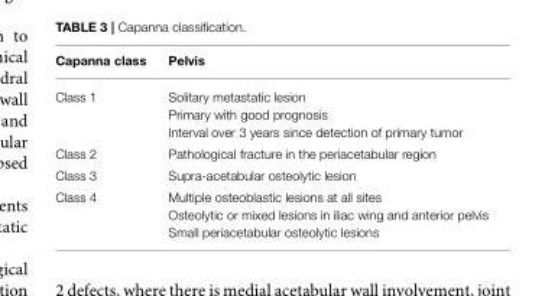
<table><thead><tr><td>Capanna class</td><td>Pelvis</td></tr></thead><tbody><tr><td>Class 1</td><td>Solitary metastatic lesion Primary with good prognosis Interval over 3 years since detection of primary tumor</td></tr><tr><td>Class 2</td><td>Pathological fracture in the periacetabular region</td></tr><tr><td>Class 3</td><td>Supra-acetabular osteolytic lesion</td></tr><tr><td>Class 4</td><td>Multiple osteoblastic lesions at all sites Osteolytic or mixed lesions in iliac wing and anterior pelvis Small periacetabular osteolytic lesions</td></tr></tbody></table>